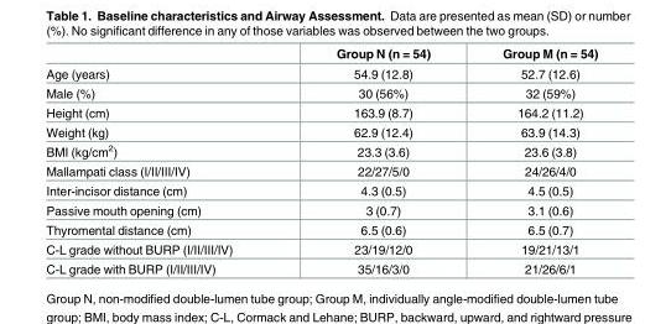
<table><thead><tr><td></td><td>Group N (n = 54)</td><td>Group M (n = 54)</td></tr></thead><tbody><tr><td>Age (years)</td><td>54.9 (12.8)</td><td>52.7 (12.6)</td></tr><tr><td>Male (%)</td><td>30 (56%)</td><td>32 (59%)</td></tr><tr><td>Height (cm)</td><td>163.9 (8.7)</td><td>164.2 (11.2)</td></tr><tr><td>Weight (kg)</td><td>62.9 (12.4)</td><td>63.9 (14.3)</td></tr><tr><td>BMI (kg/cm<sup>2</sup>)</td><td>23.3 (3.6)</td><td>23.6 (3.8)</td></tr><tr><td>Mallampati class (I/II/III/IV)</td><td>22/27/5/0</td><td>24/26/4/0</td></tr><tr><td>Inter-incisor distance (cm)</td><td>4.3 (0.5)</td><td>4.5 (0.5)</td></tr><tr><td>Passive mouth opening (cm)</td><td>3 (0.7)</td><td>3.1 (0.6)</td></tr><tr><td>Thyromental distance (cm)</td><td>6.5 (0.6)</td><td>6.5 (0.7)</td></tr><tr><td>C-L grade without BURP (I/II/III/IV)</td><td>23/19/12/0</td><td>19/21/13/1</td></tr><tr><td>C-L grade with BURP (I/II/III/IV)</td><td>35/16/3/0</td><td>21/26/6/1</td></tr></tbody></table>